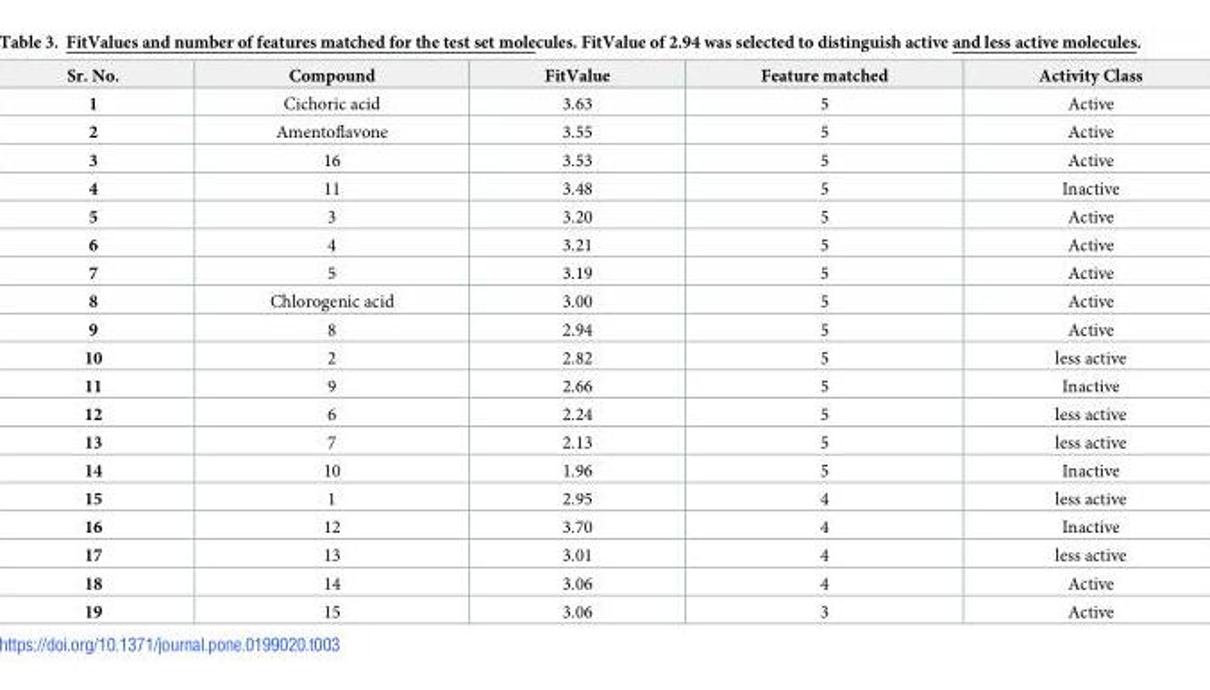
<table><thead><tr><td>Sr. No.</td><td>Compound</td><td>FitValue</td><td>Feature matched</td><td>Activity Class</td></tr></thead><tbody><tr><td>1</td><td>Cichoric acid</td><td>3.63</td><td>5</td><td>Active</td></tr><tr><td>2</td><td>Amentoflavone</td><td>3.55</td><td>5</td><td>Active</td></tr><tr><td>3</td><td>16</td><td>3.53</td><td>5</td><td>Active</td></tr><tr><td>4</td><td>11</td><td>3.48</td><td>5</td><td>Inactive</td></tr><tr><td>5</td><td>3</td><td>3.20</td><td>5</td><td>Active</td></tr><tr><td>6</td><td>4</td><td>3.21</td><td>5</td><td>Active</td></tr><tr><td>7</td><td>5</td><td>3.19</td><td>5</td><td>Active</td></tr><tr><td>8</td><td>Chlorogenic acid</td><td>3.00</td><td>5</td><td>Active</td></tr><tr><td>9</td><td>8</td><td>2.94</td><td>5</td><td>Active</td></tr><tr><td>10</td><td>2</td><td>2.82</td><td>5</td><td>less active</td></tr><tr><td>11</td><td>9</td><td>2.66</td><td>5</td><td>Inactive</td></tr><tr><td>12</td><td>6</td><td>2.24</td><td>5</td><td>less active</td></tr><tr><td>13</td><td>7</td><td>2.13</td><td>5</td><td>less active</td></tr><tr><td>14</td><td>10</td><td>1.96</td><td>5</td><td>Inactive</td></tr><tr><td>15</td><td>1</td><td>2.95</td><td>4</td><td>less active</td></tr><tr><td>16</td><td>12</td><td>3.70</td><td>4</td><td>Inactive</td></tr><tr><td>17</td><td>13</td><td>3.01</td><td>4</td><td>less active</td></tr><tr><td>18</td><td>14</td><td>3.06</td><td>4</td><td>Active</td></tr><tr><td>19</td><td>15</td><td>3.06</td><td>3</td><td>Active</td></tr></tbody></table>